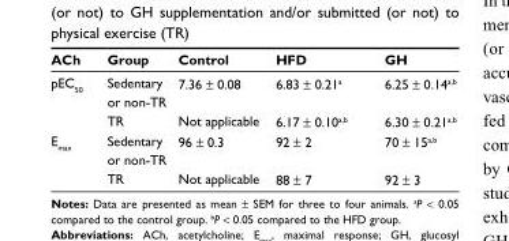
<table><thead><tr><td>ACh</td><td>Group</td><td>Control</td><td>HFD</td><td>GH</td></tr></thead><tbody><tr><td rowspan="2">pEC<sub>50</sub></td><td>Sedentary or non-TR</td><td>7.36 ± 0.08</td><td>6.83 ± 0.21<sup>a</sup></td><td>6.25 ± 0.14<sup>a</sup>,<sup>b</sup></td></tr><tr><td>TR</td><td>Not applicable</td><td>6.17 ± 0.10<sup>a</sup>,<sup>b</sup></td><td>6.30 ± 0.21<sup>a</sup>,<sup>b</sup></td></tr><tr><td rowspan="2">E<sub>max</sub></td><td>Sedentary or non-TR</td><td>96 ± 0.3</td><td>92 ± 2</td><td>70 ± 15<sup>a</sup>,<sup>b</sup></td></tr><tr><td>TR</td><td>Not applicable</td><td>88 ± 7</td><td>92 ± 3</td></tr></tbody></table>